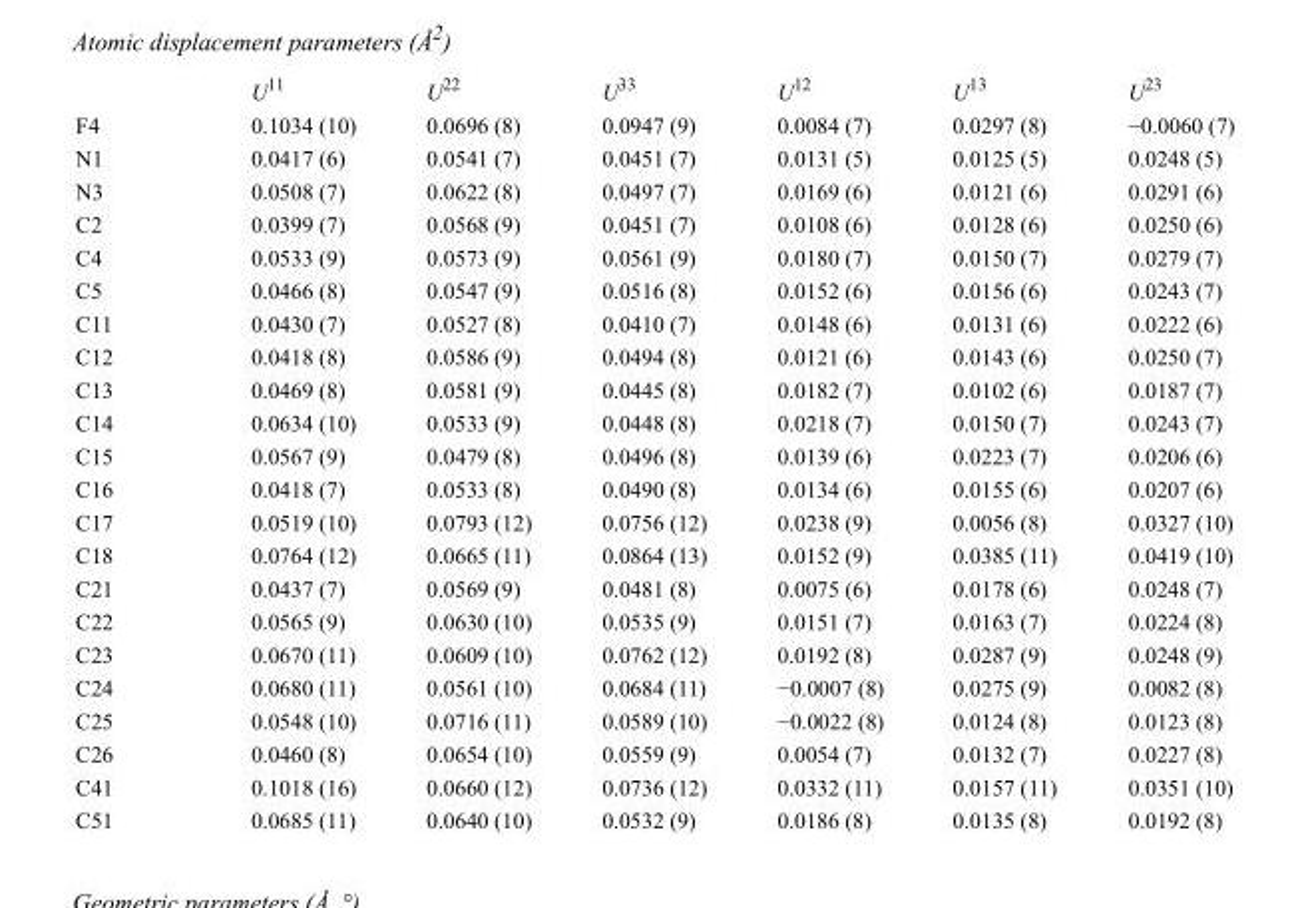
<table><thead><tr><td></td><td>U<sup>11</sup></td><td>U<sup>22</sup></td><td>U<sup>33</sup></td><td>U<sup>12</sup></td><td>U<sup>13</sup></td><td>U<sup>23</sup></td></tr></thead><tbody><tr><td>F4</td><td>0.1034 (10)</td><td>0.0696 (8)</td><td>0.0947 (9)</td><td>0.0084 (7)</td><td>0.0297 (8)</td><td>−0.0060 (7)</td></tr><tr><td>N1</td><td>0.0417 (6)</td><td>0.0541 (7)</td><td>0.0451 (7)</td><td>0.0131 (5)</td><td>0.0125 (5)</td><td>0.0248 (5)</td></tr><tr><td>N3</td><td>0.0508 (7)</td><td>0.0622 (8)</td><td>0.0497 (7)</td><td>0.0169 (6)</td><td>0.0121 (6)</td><td>0.0291 (6)</td></tr><tr><td>C2</td><td>0.0399 (7)</td><td>0.0568 (9)</td><td>0.0451 (7)</td><td>0.0108 (6)</td><td>0.0128 (6)</td><td>0.0250 (6)</td></tr><tr><td>C4</td><td>0.0533 (9)</td><td>0.0573 (9)</td><td>0.0561 (9)</td><td>0.0180 (7)</td><td>0.0150 (7)</td><td>0.0279 (7)</td></tr><tr><td>C5</td><td>0.0466 (8)</td><td>0.0547 (9)</td><td>0.0516 (8)</td><td>0.0152 (6)</td><td>0.0156 (6)</td><td>0.0243 (7)</td></tr><tr><td>C11</td><td>0.0430 (7)</td><td>0.0527 (8)</td><td>0.0410 (7)</td><td>0.0148 (6)</td><td>0.0131 (6)</td><td>0.0222 (6)</td></tr><tr><td>C12</td><td>0.0418 (8)</td><td>0.0586 (9)</td><td>0.0494 (8)</td><td>0.0121 (6)</td><td>0.0143 (6)</td><td>0.0250 (7)</td></tr><tr><td>C13</td><td>0.0469 (8)</td><td>0.0581 (9)</td><td>0.0445 (8)</td><td>0.0182 (7)</td><td>0.0102 (6)</td><td>0.0187 (7)</td></tr><tr><td>C14</td><td>0.0634 (10)</td><td>0.0533 (9)</td><td>0.0448 (8)</td><td>0.0218 (7)</td><td>0.0150 (7)</td><td>0.0243 (7)</td></tr><tr><td>C15</td><td>0.0567 (9)</td><td>0.0479 (8)</td><td>0.0496 (8)</td><td>0.0139 (6)</td><td>0.0223 (7)</td><td>0.0206 (6)</td></tr><tr><td>C16</td><td>0.0418 (7)</td><td>0.0533 (8)</td><td>0.0490 (8)</td><td>0.0134 (6)</td><td>0.0155 (6)</td><td>0.0207 (6)</td></tr><tr><td>C17</td><td>0.0519 (10)</td><td>0.0793 (12)</td><td>0.0756 (12)</td><td>0.0238 (9)</td><td>0.0056 (8)</td><td>0.0327 (10)</td></tr><tr><td>C18</td><td>0.0764 (12)</td><td>0.0665 (11)</td><td>0.0864 (13)</td><td>0.0152 (9)</td><td>0.0385 (11)</td><td>0.0419 (10)</td></tr><tr><td>C21</td><td>0.0437 (7)</td><td>0.0569 (9)</td><td>0.0481 (8)</td><td>0.0075 (6)</td><td>0.0178 (6)</td><td>0.0248 (7)</td></tr><tr><td>C22</td><td>0.0565 (9)</td><td>0.0630 (10)</td><td>0.0535 (9)</td><td>0.0151 (7)</td><td>0.0163 (7)</td><td>0.0224 (8)</td></tr><tr><td>C23</td><td>0.0670 (11)</td><td>0.0609 (10)</td><td>0.0762 (12)</td><td>0.0192 (8)</td><td>0.0287 (9)</td><td>0.0248 (9)</td></tr><tr><td>C24</td><td>0.0680 (11)</td><td>0.0561 (10)</td><td>0.0684 (11)</td><td>−0.0007 (8)</td><td>0.0275 (9)</td><td>0.0082 (8)</td></tr><tr><td>C25</td><td>0.0548 (10)</td><td>0.0716 (11)</td><td>0.0589 (10)</td><td>−0.0022 (8)</td><td>0.0124 (8)</td><td>0.0123 (8)</td></tr><tr><td>C26</td><td>0.0460 (8)</td><td>0.0654 (10)</td><td>0.0559 (9)</td><td>0.0054 (7)</td><td>0.0132 (7)</td><td>0.0227 (8)</td></tr><tr><td>C41</td><td>0.1018 (16)</td><td>0.0660 (12)</td><td>0.0736 (12)</td><td>0.0332 (11)</td><td>0.0157 (11)</td><td>0.0351 (10)</td></tr><tr><td>C51</td><td>0.0685 (11)</td><td>0.0640 (10)</td><td>0.0532 (9)</td><td>0.0186 (8)</td><td>0.0135 (8)</td><td>0.0192 (8)</td></tr></tbody></table>